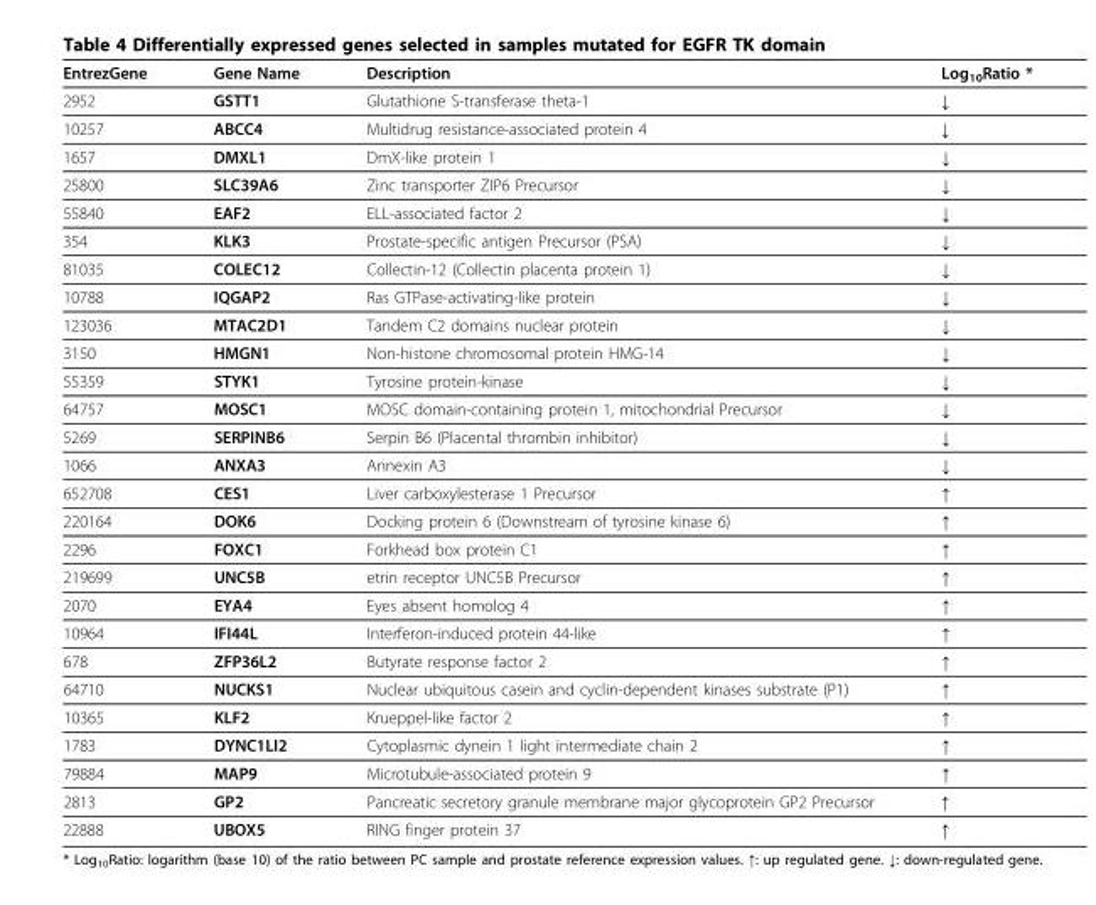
<table><thead><tr><td>EntrezGene</td><td>Gene Name</td><td>Description</td><td>Log<sub>10</sub>Ratio *</td></tr></thead><tbody><tr><td>2952</td><td>GSTT1</td><td>Glutathione S-transferase theta-1</td><td>↓</td></tr><tr><td>10257</td><td>ABCC4</td><td>Multidrug resistance-associated protein 4</td><td>↓</td></tr><tr><td>1657</td><td>DMXL1</td><td>DmX-like protein 1</td><td>↓</td></tr><tr><td>25800</td><td>SLC39A6</td><td>Zinc transporter ZIP6 Precursor</td><td>↓</td></tr><tr><td>55840</td><td>EAF2</td><td>ELL-associated factor 2</td><td>↓</td></tr><tr><td>354</td><td>KLK3</td><td>Prostate-specific antigen Precursor (PSA)</td><td>↓</td></tr><tr><td>81035</td><td>COLEC12</td><td>Collectin-12 (Collectin placenta protein 1)</td><td>↓</td></tr><tr><td>10788</td><td>IQGAP2</td><td>Ras GTPase-activating-like protein</td><td>↓</td></tr><tr><td>123036</td><td>MTAC2D1</td><td>Tandem C2 domains nuclear protein</td><td>↓</td></tr><tr><td>3150</td><td>HMGN1</td><td>Non-histone chromosomal protein HMG-14</td><td>↓</td></tr><tr><td>55359</td><td>STYK1</td><td>Tyrosine protein-kinase</td><td>↓</td></tr><tr><td>64757</td><td>MOSC1</td><td>MOSC domain-containing protein 1, mitochondrial Precursor</td><td>↓</td></tr><tr><td>5269</td><td>SERPINB6</td><td>Serpin B6 (Placental thrombin inhibitor)</td><td>↓</td></tr><tr><td>1066</td><td>ANXA3</td><td>Annexin A3</td><td>↓</td></tr><tr><td>652708</td><td>CES1</td><td>Liver carboxylesterase 1 Precursor</td><td>↑</td></tr><tr><td>220164</td><td>DOK6</td><td>Docking protein 6 (Downstream of tyrosine kinase 6)</td><td>↑</td></tr><tr><td>2296</td><td>FOXC1</td><td>Forkhead box protein C1</td><td>↑</td></tr><tr><td>219699</td><td>UNC5B</td><td>etrin receptor UNC5B Precursor</td><td>↑</td></tr><tr><td>2070</td><td>EYA4</td><td>Eyes absent homolog 4</td><td>↑</td></tr><tr><td>10964</td><td>IFI44L</td><td>Interferon-induced protein 44-like</td><td>↑</td></tr><tr><td>678</td><td>ZFP36L2</td><td>Butyrate response factor 2</td><td>↑</td></tr><tr><td>64710</td><td>NUCKS1</td><td>Nuclear ubiquitous casein and cyclin-dependent kinases substrate (P1)</td><td>↑</td></tr><tr><td>10365</td><td>KLF2</td><td>Krueppel-like factor 2</td><td>↑</td></tr><tr><td>1783</td><td>DYNC1LI2</td><td>Cytoplasmic dynein 1 light intermediate chain 2</td><td>↑</td></tr><tr><td>79884</td><td>MAP9</td><td>Microtubule-associated protein 9</td><td>↑</td></tr><tr><td>2813</td><td>GP2</td><td>Pancreatic secretory granule membrane major glycoprotein GP2 Precursor</td><td>↑</td></tr><tr><td>22888</td><td>UBOX5</td><td>RING finger protein 37</td><td>↑</td></tr></tbody></table>